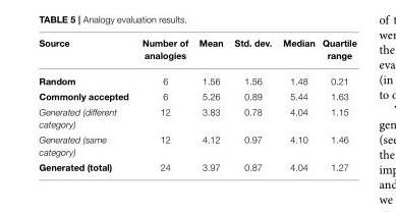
<table><thead><tr><td>Source</td><td>Number of analogies</td><td>Mean</td><td>Std. dev.</td><td>Median</td><td>Quartile range</td></tr></thead><tbody><tr><td>Random</td><td>6</td><td>1.56</td><td>1.56</td><td>1.48</td><td>0.21</td></tr><tr><td>Commonly accepted</td><td>6</td><td>5.26</td><td>0.89</td><td>5.44</td><td>1.63</td></tr><tr><td>Generated (different category)</td><td>12</td><td>3.83</td><td>0.78</td><td>4.04</td><td>1.15</td></tr><tr><td>Generated (same category)</td><td>12</td><td>4.12</td><td>0.97</td><td>4.10</td><td>1.46</td></tr><tr><td>Generated (total)</td><td>24</td><td>3.97</td><td>0.87</td><td>4.04</td><td>1.27</td></tr></tbody></table>